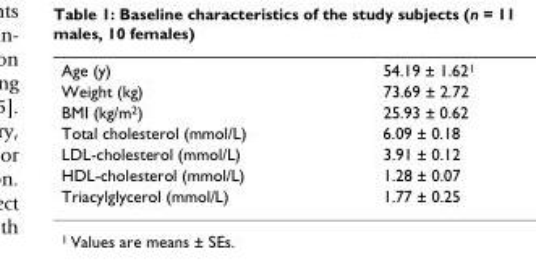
<table><tbody><tr><td>Age (y)</td><td>54.19 ± 1.62<sup>1</sup></td></tr><tr><td>Weight (kg)</td><td>73.69 ± 2.72</td></tr><tr><td>BMI (kg/m<sup>2</sup>)</td><td>25.93 ± 0.62</td></tr><tr><td>Total cholesterol (mmol/L)</td><td>6.09 ± 0.18</td></tr><tr><td>LDL-cholesterol (mmol/L)</td><td>3.91 ± 0.12</td></tr><tr><td>HDL-cholesterol (mmol/L)</td><td>1.28 ± 0.07</td></tr><tr><td>Triacylglycerol (mmol/L)</td><td>1.77 ± 0.25</td></tr></tbody></table>